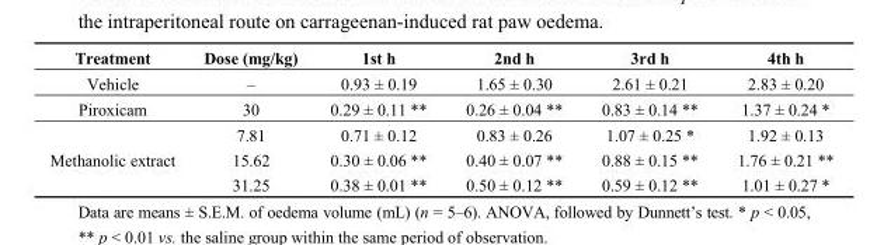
<table><thead><tr><td>Treatment</td><td>Dose (mg/kg)</td><td>1st h</td><td>2nd h</td><td>3rd h</td><td>4th h</td></tr></thead><tbody><tr><td>Vehicle</td><td>–</td><td>0.93 ± 0.19</td><td>1.65 ± 0.30</td><td>2.61 ± 0.21</td><td>2.83 ± 0.20</td></tr><tr><td>Piroxicam</td><td>30</td><td>0.29 ± 0.11 **</td><td>0.26 ± 0.04 **</td><td>0.83 ± 0.14 **</td><td>1.37 ± 0.24 *</td></tr><tr><td rowspan="3">Methanolic extract</td><td>7.81</td><td>0.71 ± 0.12</td><td>0.83 ± 0.26</td><td>1.07 ± 0.25 *</td><td>1.92 ± 0.13</td></tr><tr><td>15.62</td><td>0.30 ± 0.06 **</td><td>0.40 ± 0.07 **</td><td>0.88 ± 0.15 **</td><td>1.76 ± 0.21 **</td></tr><tr><td>31.25</td><td>0.38 ± 0.01 **</td><td>0.50 ± 0.12 **</td><td>0.59 ± 0.12 **</td><td>1.01 ± 0.27 *</td></tr></tbody></table>